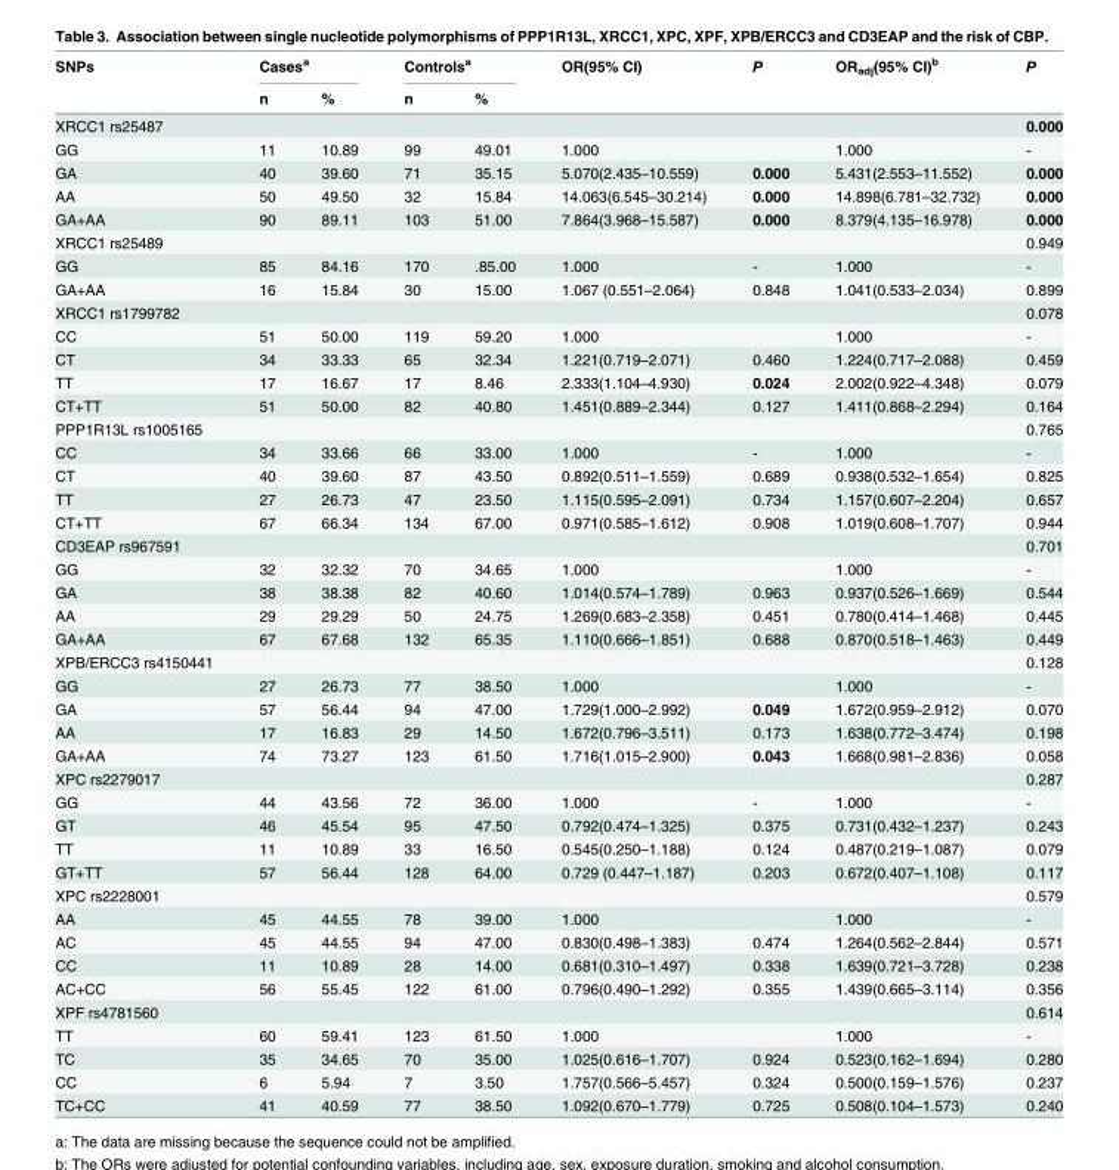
<table><thead><tr><td rowspan="2">SNPs</td><td colspan="2">Cases<sup>a</sup></td><td colspan="2">Controls<sup>a</sup></td><td rowspan="2">OR(95% CI)</td><td rowspan="2">P</td><td rowspan="2">OR<sub>adj</sub>(95% CI)<sup>b</sup></td><td rowspan="2">P</td></tr><tr><td>n</td><td>%</td><td>n</td><td>%</td></tr></thead><tbody><tr><td>XRCC1 rs25487</td><td></td><td></td><td></td><td></td><td></td><td></td><td></td><td>0.000</td></tr><tr><td>GG</td><td>11</td><td>10.89</td><td>99</td><td>49.01</td><td>1.000</td><td></td><td>1.000</td><td>-</td></tr><tr><td>GA</td><td>40</td><td>39.60</td><td>71</td><td>35.15</td><td>5.070(2.435–10.559)</td><td>0.000</td><td>5.431(2.553–11.552)</td><td>0.000</td></tr><tr><td>AA</td><td>50</td><td>49.50</td><td>32</td><td>15.84</td><td>14.063(6.545–30.214)</td><td>0.000</td><td>14.898(6.781–32.732)</td><td>0.000</td></tr><tr><td>GA+AA</td><td>90</td><td>89.11</td><td>103</td><td>51.00</td><td>7.864(3.968–15.587)</td><td>0.000</td><td>8.379(4.135–16.978)</td><td>0.000</td></tr><tr><td>XRCC1 rs25489</td><td></td><td></td><td></td><td></td><td></td><td></td><td></td><td>0.949</td></tr><tr><td>GG</td><td>85</td><td>84.16</td><td>170</td><td>.85.00</td><td>1.000</td><td>-</td><td>1.000</td><td>-</td></tr><tr><td>GA+AA</td><td>16</td><td>15.84</td><td>30</td><td>15.00</td><td>1.067 (0.551–2.064)</td><td>0.848</td><td>1.041(0.533–2.034)</td><td>0.899</td></tr><tr><td>XRCC1 rs1799782</td><td></td><td></td><td></td><td></td><td></td><td></td><td></td><td>0.078</td></tr><tr><td>CC</td><td>51</td><td>50.00</td><td>119</td><td>59.20</td><td>1.000</td><td></td><td>1.000</td><td>-</td></tr><tr><td>CT</td><td>34</td><td>33.33</td><td>65</td><td>32.34</td><td>1.221(0.719–2.071)</td><td>0.460</td><td>1.224(0.717–2.088)</td><td>0.459</td></tr><tr><td>TT</td><td>17</td><td>16.67</td><td>17</td><td>8.46</td><td>2.333(1.104–4.930)</td><td>0.024</td><td>2.002(0.922–4.348)</td><td>0.079</td></tr><tr><td>CT+TT</td><td>51</td><td>50.00</td><td>82</td><td>40.80</td><td>1.451(0.889–2.344)</td><td>0.127</td><td>1.411(0.868–2.294)</td><td>0.164</td></tr><tr><td>PPP1R13L rs1005165</td><td></td><td></td><td></td><td></td><td></td><td></td><td></td><td>0.765</td></tr><tr><td>CC</td><td>34</td><td>33.66</td><td>66</td><td>33.00</td><td>1.000</td><td>-</td><td>1.000</td><td>-</td></tr><tr><td>CT</td><td>40</td><td>39.60</td><td>87</td><td>43.50</td><td>0.892(0.511–1.559)</td><td>0.689</td><td>0.938(0.532–1.654)</td><td>0.825</td></tr><tr><td>TT</td><td>27</td><td>26.73</td><td>47</td><td>23.50</td><td>1.115(0.595–2.091)</td><td>0.734</td><td>1.157(0.607–2.204)</td><td>0.657</td></tr><tr><td>CT+TT</td><td>67</td><td>66.34</td><td>134</td><td>67.00</td><td>0.971(0.585–1.612)</td><td>0.908</td><td>1.019(0.608–1.707)</td><td>0.944</td></tr><tr><td>CD3EAP rs967591</td><td></td><td></td><td></td><td></td><td></td><td></td><td></td><td>0.701</td></tr><tr><td>GG</td><td>32</td><td>32.32</td><td>70</td><td>34.65</td><td>1.000</td><td></td><td>1.000</td><td>-</td></tr><tr><td>GA</td><td>38</td><td>38.38</td><td>82</td><td>40.60</td><td>1.014(0.574–1.789)</td><td>0.963</td><td>0.937(0.526–1.669)</td><td>0.544</td></tr><tr><td>AA</td><td>29</td><td>29.29</td><td>50</td><td>24.75</td><td>1.269(0.683–2.358)</td><td>0.451</td><td>0.780(0.414–1.468)</td><td>0.445</td></tr><tr><td>GA+AA</td><td>67</td><td>67.68</td><td>132</td><td>65.35</td><td>1.110(0.666–1.851)</td><td>0.688</td><td>0.870(0.518–1.463)</td><td>0.449</td></tr><tr><td>XPB/ERCC3 rs4150441</td><td></td><td></td><td></td><td></td><td></td><td></td><td></td><td>0.128</td></tr><tr><td>GG</td><td>27</td><td>26.73</td><td>77</td><td>38.50</td><td>1.000</td><td></td><td>1.000</td><td>-</td></tr><tr><td>GA</td><td>57</td><td>56.44</td><td>94</td><td>47.00</td><td>1.729(1.000–2.992)</td><td>0.049</td><td>1.672(0.959–2.912)</td><td>0.070</td></tr><tr><td>AA</td><td>17</td><td>16.83</td><td>29</td><td>14.50</td><td>1.672(0.796–3.511)</td><td>0.173</td><td>1.638(0.772–3.474)</td><td>0.198</td></tr><tr><td>GA+AA</td><td>74</td><td>73.27</td><td>123</td><td>61.50</td><td>1.716(1.015–2.900)</td><td>0.043</td><td>1.668(0.981–2.836)</td><td>0.058</td></tr><tr><td>XPC rs2279017</td><td></td><td></td><td></td><td></td><td></td><td></td><td></td><td>0.287</td></tr><tr><td>GG</td><td>44</td><td>43.56</td><td>72</td><td>36.00</td><td>1.000</td><td>-</td><td>1.000</td><td>-</td></tr><tr><td>GT</td><td>46</td><td>45.54</td><td>95</td><td>47.50</td><td>0.792(0.474–1.325)</td><td>0.375</td><td>0.731(0.432–1.237)</td><td>0.243</td></tr><tr><td>TT</td><td>11</td><td>10.89</td><td>33</td><td>16.50</td><td>0.545(0.250–1.188)</td><td>0.124</td><td>0.487(0.219–1.087)</td><td>0.079</td></tr><tr><td>GT+TT</td><td>57</td><td>56.44</td><td>128</td><td>64.00</td><td>0.729 (0.447–1.187)</td><td>0.203</td><td>0.672(0.407–1.108)</td><td>0.117</td></tr><tr><td>XPC rs2228001</td><td></td><td></td><td></td><td></td><td></td><td></td><td></td><td>0.579</td></tr><tr><td>AA</td><td>45</td><td>44.55</td><td>78</td><td>39.00</td><td>1.000</td><td></td><td>1.000</td><td>-</td></tr><tr><td>AC</td><td>45</td><td>44.55</td><td>94</td><td>47.00</td><td>0.830(0.498–1.383)</td><td>0.474</td><td>1.264(0.562–2.844)</td><td>0.571</td></tr><tr><td>CC</td><td>11</td><td>10.89</td><td>28</td><td>14.00</td><td>0.681(0.310–1.497)</td><td>0.338</td><td>1.639(0.721–3.728)</td><td>0.238</td></tr><tr><td>AC+CC</td><td>56</td><td>55.45</td><td>122</td><td>61.00</td><td>0.796(0.490–1.292)</td><td>0.355</td><td>1.439(0.665–3.114)</td><td>0.356</td></tr><tr><td>XPF rs4781560</td><td></td><td></td><td></td><td></td><td></td><td></td><td></td><td>0.614</td></tr><tr><td>TT</td><td>60</td><td>59.41</td><td>123</td><td>61.50</td><td>1.000</td><td></td><td>1.000</td><td>-</td></tr><tr><td>TC</td><td>35</td><td>34.65</td><td>70</td><td>35.00</td><td>1.025(0.616–1.707)</td><td>0.924</td><td>0.523(0.162–1.694)</td><td>0.280</td></tr><tr><td>CC</td><td>6</td><td>5.94</td><td>7</td><td>3.50</td><td>1.757(0.566–5.457)</td><td>0.324</td><td>0.500(0.159–1.576)</td><td>0.237</td></tr><tr><td>TC+CC</td><td>41</td><td>40.59</td><td>77</td><td>38.50</td><td>1.092(0.670–1.779)</td><td>0.725</td><td>0.508(0.104–1.573)</td><td>0.240</td></tr></tbody></table>